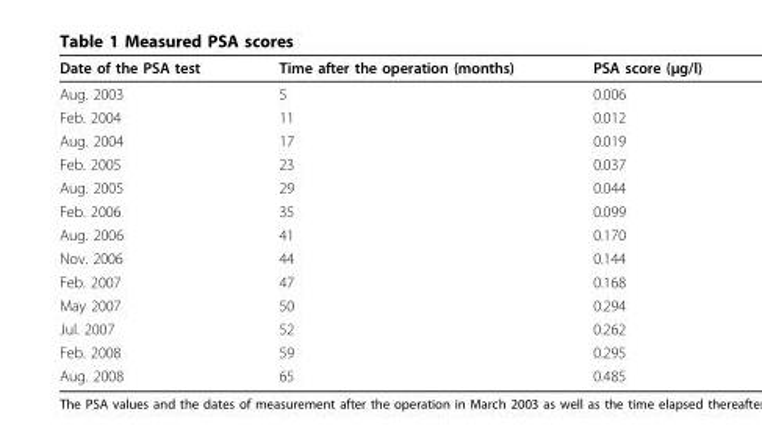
<table><thead><tr><td>Date of the PSA test</td><td>Time after the operation (months)</td><td>PSA score (μg/l)</td></tr></thead><tbody><tr><td>Aug. 2003</td><td>5</td><td>0.006</td></tr><tr><td>Feb. 2004</td><td>11</td><td>0.012</td></tr><tr><td>Aug. 2004</td><td>17</td><td>0.019</td></tr><tr><td>Feb. 2005</td><td>23</td><td>0.037</td></tr><tr><td>Aug. 2005</td><td>29</td><td>0.044</td></tr><tr><td>Feb. 2006</td><td>35</td><td>0.099</td></tr><tr><td>Aug. 2006</td><td>41</td><td>0.170</td></tr><tr><td>Nov. 2006</td><td>44</td><td>0.144</td></tr><tr><td>Feb. 2007</td><td>47</td><td>0.168</td></tr><tr><td>May 2007</td><td>50</td><td>0.294</td></tr><tr><td>Jul. 2007</td><td>52</td><td>0.262</td></tr><tr><td>Feb. 2008</td><td>59</td><td>0.295</td></tr><tr><td>Aug. 2008</td><td>65</td><td>0.485</td></tr></tbody></table>